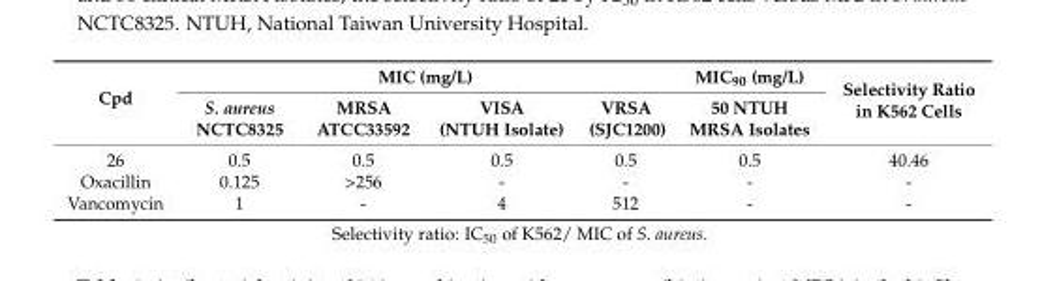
<table><thead><tr><td rowspan="2">Cpd</td><td colspan="4">MIC (mg/L)</td><td rowspan="2">MIC90 (mg/L) 50 NTUH MRSA Isolates</td><td rowspan="2">Selectivity Ratio in K562 Cells</td></tr><tr><td>S. aureus NCTC8325</td><td>MRSA ATCC33592</td><td>VISA (NTUH Isolate)</td><td>VRSA (SJC1200)</td></tr></thead><tbody><tr><td>26</td><td>0.5</td><td>0.5</td><td>0.5</td><td>0.5</td><td>0.5</td><td>40.46</td></tr><tr><td>Oxacillin</td><td>0.125</td><td>&gt;256</td><td>-</td><td>-</td><td>-</td><td>-</td></tr><tr><td>Vancomycin</td><td>1</td><td>-</td><td>4</td><td>512</td><td>-</td><td>-</td></tr></tbody></table>